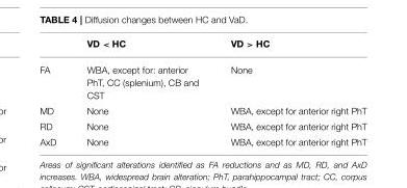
<table><thead><tr><td></td><td>VD &lt; HC</td><td>VD &gt; HC</td></tr></thead><tbody><tr><td>FA</td><td>WBA, except for: anterior PhT, CC (splenium), CB and CST</td><td>None</td></tr><tr><td>MD</td><td>None</td><td>WBA, except for anterior right PhT</td></tr><tr><td>RD</td><td>None</td><td>WBA, except for anterior right PhT</td></tr><tr><td>AxD</td><td>None</td><td>WBA, except for anterior right PhT</td></tr></tbody></table>